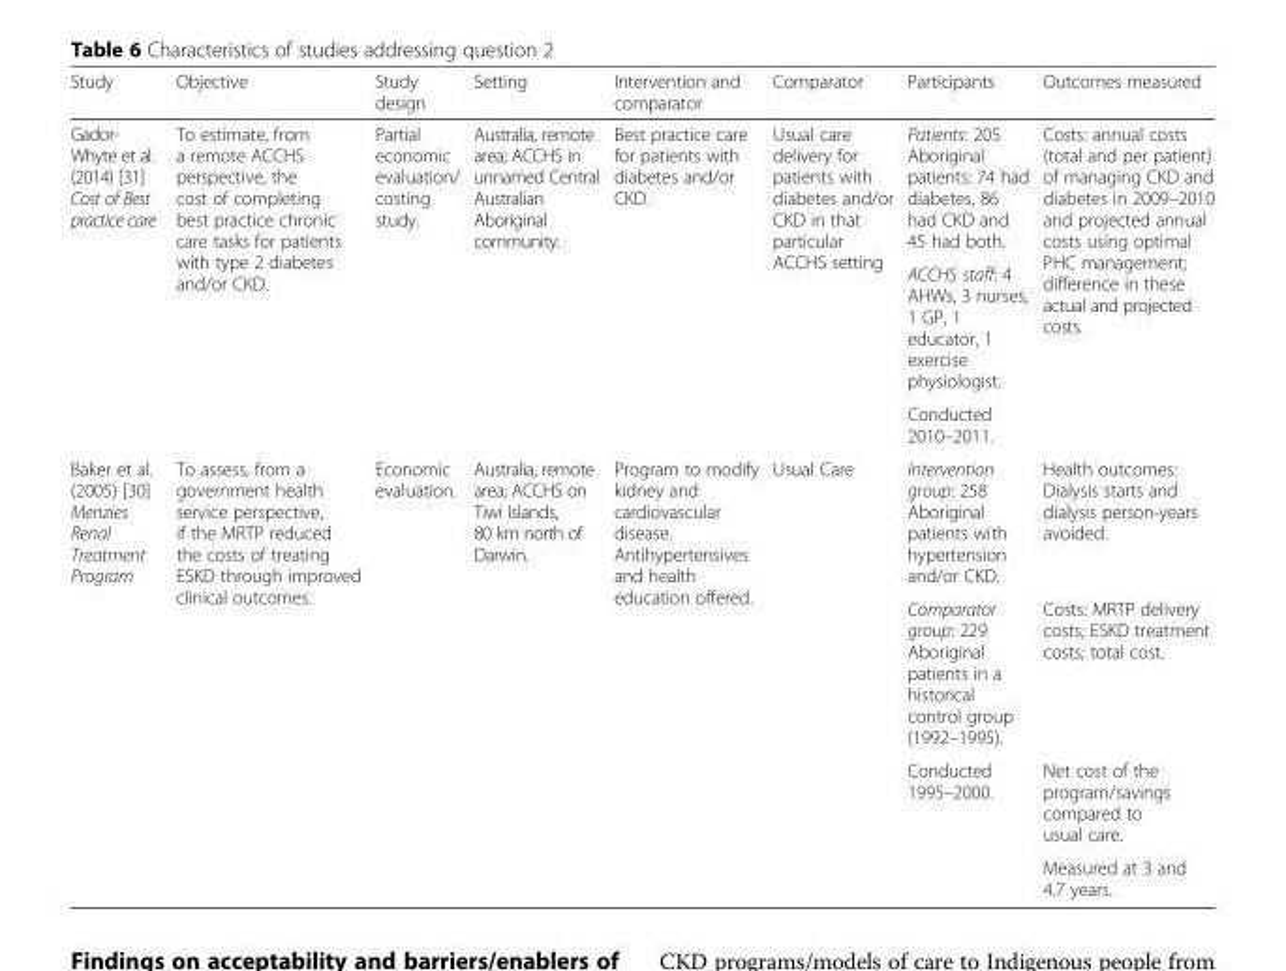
<table><thead><tr><td>Study</td><td>Objective</td><td>Study design</td><td>Setting</td><td>Intervention and comparator</td><td>Comparator</td><td>Participants</td><td>Outcomes measured</td></tr></thead><tbody><tr><td rowspan="3">Gador- Whyte et al. (2014) [31] Cost of Best practice care</td><td rowspan="3">To estimate, from a remote ACCHS perspective, the cost of completing best practice chronic care tasks for patients with type 2 diabetes and/or CKD.</td><td rowspan="3">Partial economic evaluation/ costing study.</td><td rowspan="3">Australia, remote area; ACCHS in unnamed Central Australian Aboriginal community.</td><td rowspan="3">Best practice care for patients with diabetes and/or CKD.</td><td rowspan="3">Usual care delivery for patients with diabetes and/or CKD in that particular ACCHS setting</td><td>Patients: 205 Aboriginal patients: 74 had diabetes, 86 had CKD and 45 had both.</td><td rowspan="3">Costs: annual costs (total and per patient) of managing CKD and diabetes in 2009–2010 and projected annual costs using optimal PHC management; difference in these actual and projected costs.</td></tr><tr><td>ACCHS staff: 4 AHWs, 3 nurses, 1 GP, 1 educator, 1 exercise physiologist.</td></tr><tr><td>Conducted 2010–2011.</td></tr><tr><td rowspan="4">Baker et al. (2005) [30] Menzies Renal Treatment Program</td><td rowspan="4">To assess, from a government health service perspective, if the MRTP reduced the costs of treating ESKD through improved clinical outcomes.</td><td rowspan="4">Economic evaluation.</td><td rowspan="4">Australia, remote area; ACCHS on Tiwi Islands, 80 km north of Darwin.</td><td rowspan="4">Program to modify kidney and cardiovascular disease. Antihypertensives and health education offered.</td><td rowspan="4">Usual Care</td><td>Intervention group: 258 Aboriginal patients with hypertension and/or CKD.</td><td>Health outcomes: Dialysis starts and dialysis person-years avoided.</td></tr><tr><td>Comparator group: 229 Aboriginal patients in a historical control group (1992–1995).</td><td>Costs: MRTP delivery costs; ESKD treatment costs; total cost.</td></tr><tr><td rowspan="2">Conducted 1995–2000.</td><td>Net cost of the program/savings compared to usual care.</td></tr><tr><td>Measured at 3 and 4.7 years.</td></tr></tbody></table>